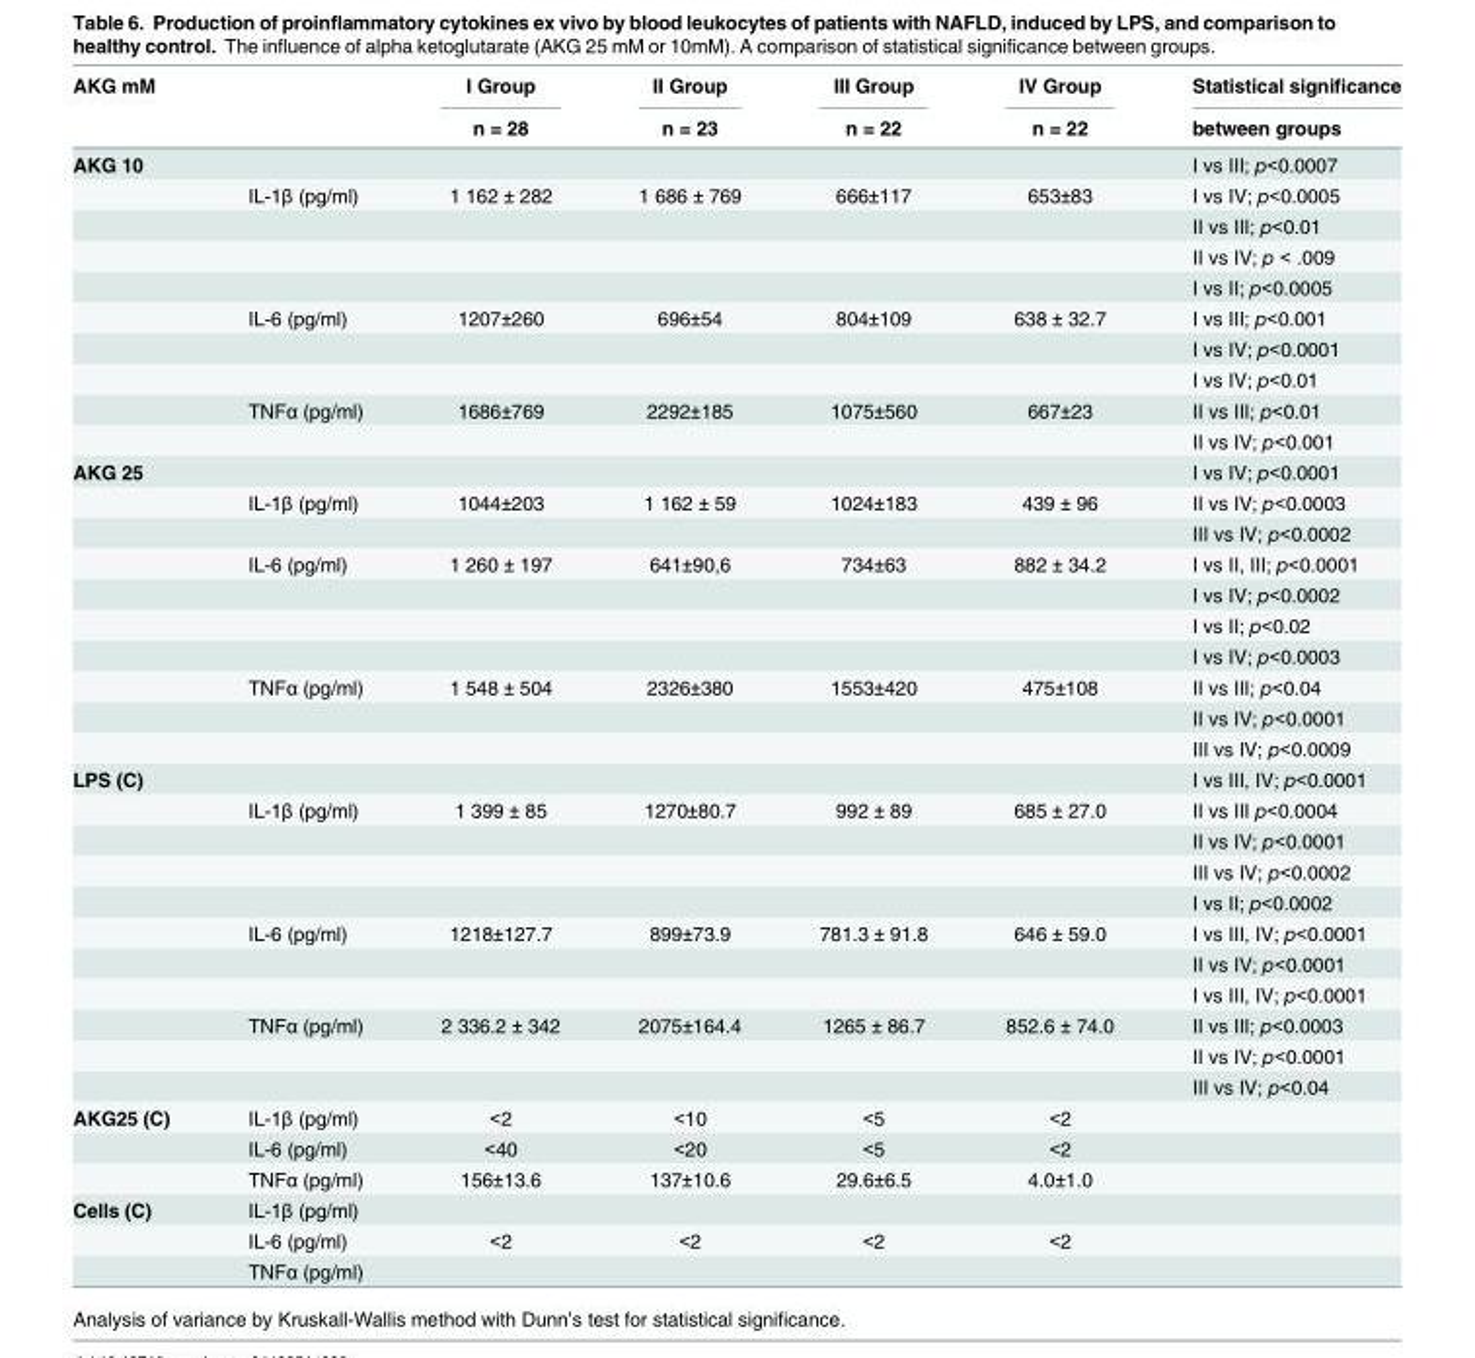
<table><thead><tr><td rowspan="2">AKG mM</td><td rowspan="2"></td><td rowspan="2">I Group n = 28</td><td rowspan="2">II Group n = 23</td><td rowspan="2">III Group n = 22</td><td rowspan="2">IV Group n = 22</td><td rowspan="2">Statistical significance between groups</td></tr><tr></tr></thead><tbody><tr><td rowspan="10">AKG 10</td><td></td><td></td><td></td><td></td><td></td><td>I vs III; p&lt;0.0007</td></tr><tr><td>IL-1β (pg/ml)</td><td>1 162 ± 282</td><td>1 686 ± 769</td><td>666±117</td><td>653±83</td><td>I vs IV; p&lt;0.0005</td></tr><tr><td></td><td></td><td></td><td></td><td></td><td>II vs III; p&lt;0.01</td></tr><tr><td></td><td></td><td></td><td></td><td></td><td>II vs IV; p &lt; .009</td></tr><tr><td></td><td></td><td></td><td></td><td></td><td>I vs II; p&lt;0.0005</td></tr><tr><td>IL-6 (pg/ml)</td><td>1207±260</td><td>696±54</td><td>804±109</td><td>638 ± 32.7</td><td>I vs III; p&lt;0.001</td></tr><tr><td></td><td></td><td></td><td></td><td></td><td>I vs IV; p&lt;0.0001</td></tr><tr><td></td><td></td><td></td><td></td><td></td><td>I vs IV; p&lt;0.01</td></tr><tr><td>TNFα (pg/ml)</td><td>1686±769</td><td>2292±185</td><td>1075±560</td><td>667±23</td><td>II vs III; p&lt;0.01</td></tr><tr><td></td><td></td><td></td><td></td><td></td><td>II vs IV; p&lt;0.001</td></tr><tr><td rowspan="10">AKG 25</td><td></td><td></td><td></td><td></td><td></td><td>I vs IV; p&lt;0.0001</td></tr><tr><td>IL-1β (pg/ml)</td><td>1044±203</td><td>1 162 ± 59</td><td>1024±183</td><td>439 ± 96</td><td>II vs IV; p&lt;0.0003</td></tr><tr><td></td><td></td><td></td><td></td><td></td><td>III vs IV; p&lt;0.0002</td></tr><tr><td>IL-6 (pg/ml)</td><td>1 260 ± 197</td><td>641±90,6</td><td>734±63</td><td>882 ± 34.2</td><td>I vs II, III; p&lt;0.0001</td></tr><tr><td></td><td></td><td></td><td></td><td></td><td>I vs IV; p&lt;0.0002</td></tr><tr><td></td><td></td><td></td><td></td><td></td><td>I vs II; p&lt;0.02</td></tr><tr><td></td><td></td><td></td><td></td><td></td><td>I vs IV; p&lt;0.0003</td></tr><tr><td>TNFα (pg/ml)</td><td>1 548 ± 504</td><td>2326±380</td><td>1553±420</td><td>475±108</td><td>II vs III; p&lt;0.04</td></tr><tr><td></td><td></td><td></td><td></td><td></td><td>II vs IV; p&lt;0.0001</td></tr><tr><td></td><td></td><td></td><td></td><td></td><td>III vs IV; p&lt;0.0009</td></tr><tr><td rowspan="11">LPS (C)</td><td></td><td></td><td></td><td></td><td></td><td>I vs III, IV; p&lt;0.0001</td></tr><tr><td>IL-1β (pg/ml)</td><td>1 399 ± 85</td><td>1270±80.7</td><td>992 ± 89</td><td>685 ± 27.0</td><td>II vs III p&lt;0.0004</td></tr><tr><td></td><td></td><td></td><td></td><td></td><td>II vs IV; p&lt;0.0001</td></tr><tr><td></td><td></td><td></td><td></td><td></td><td>III vs IV; p&lt;0.0002</td></tr><tr><td></td><td></td><td></td><td></td><td></td><td>I vs II; p&lt;0.0002</td></tr><tr><td>IL-6 (pg/ml)</td><td>1218±127.7</td><td>899±73.9</td><td>781.3 ± 91.8</td><td>646 ± 59.0</td><td>I vs III, IV; p&lt;0.0001</td></tr><tr><td></td><td></td><td></td><td></td><td></td><td>II vs IV; p&lt;0.0001</td></tr><tr><td></td><td></td><td></td><td></td><td></td><td>I vs III, IV; p&lt;0.0001</td></tr><tr><td>TNFα (pg/ml)</td><td>2 336.2 ± 342</td><td>2075±164.4</td><td>1265 ± 86.7</td><td>852.6 ± 74.0</td><td>II vs III; p&lt;0.0003</td></tr><tr><td></td><td></td><td></td><td></td><td></td><td>II vs IV; p&lt;0.0001</td></tr><tr><td></td><td></td><td></td><td></td><td></td><td>III vs IV; p&lt;0.04</td></tr><tr><td rowspan="3">AKG25 (C)</td><td>IL-1β (pg/ml)</td><td>&lt;2</td><td>&lt;10</td><td>&lt;5</td><td>&lt;2</td><td></td></tr><tr><td>IL-6 (pg/ml)</td><td>&lt;40</td><td>&lt;20</td><td>&lt;5</td><td>&lt;2</td><td></td></tr><tr><td>TNFα (pg/ml)</td><td>156±13.6</td><td>137±10.6</td><td>29.6±6.5</td><td>4.0±1.0</td><td></td></tr><tr><td rowspan="3">Cells (C)</td><td>IL-1β (pg/ml)</td><td></td><td></td><td></td><td></td><td></td></tr><tr><td>IL-6 (pg/ml)</td><td>&lt;2</td><td>&lt;2</td><td>&lt;2</td><td>&lt;2</td><td></td></tr><tr><td>TNFα (pg/ml)</td><td></td><td></td><td></td><td></td><td></td></tr></tbody></table>